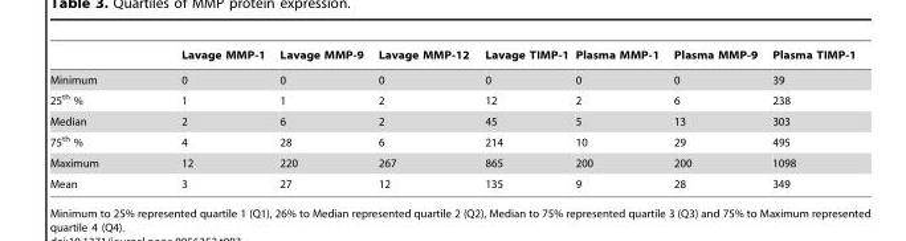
<table><thead><tr><td></td><td>Lavage MMP-1</td><td>Lavage MMP-9</td><td>Lavage MMP-12</td><td>Lavage TIMP-1</td><td>Plasma MMP-1</td><td>Plasma MMP-9</td><td>Plasma TIMP-1</td></tr></thead><tbody><tr><td>Minimum</td><td>0</td><td>0</td><td>0</td><td>0</td><td>0</td><td>0</td><td>39</td></tr><tr><td>25<sup>th</sup> %</td><td>1</td><td>1</td><td>2</td><td>12</td><td>2</td><td>6</td><td>238</td></tr><tr><td>Median</td><td>2</td><td>6</td><td>2</td><td>45</td><td>5</td><td>13</td><td>303</td></tr><tr><td>75<sup>th</sup> %</td><td>4</td><td>28</td><td>6</td><td>214</td><td>10</td><td>29</td><td>495</td></tr><tr><td>Maximum</td><td>12</td><td>220</td><td>267</td><td>865</td><td>200</td><td>200</td><td>1098</td></tr><tr><td>Mean</td><td>3</td><td>27</td><td>12</td><td>135</td><td>9</td><td>28</td><td>349</td></tr></tbody></table>